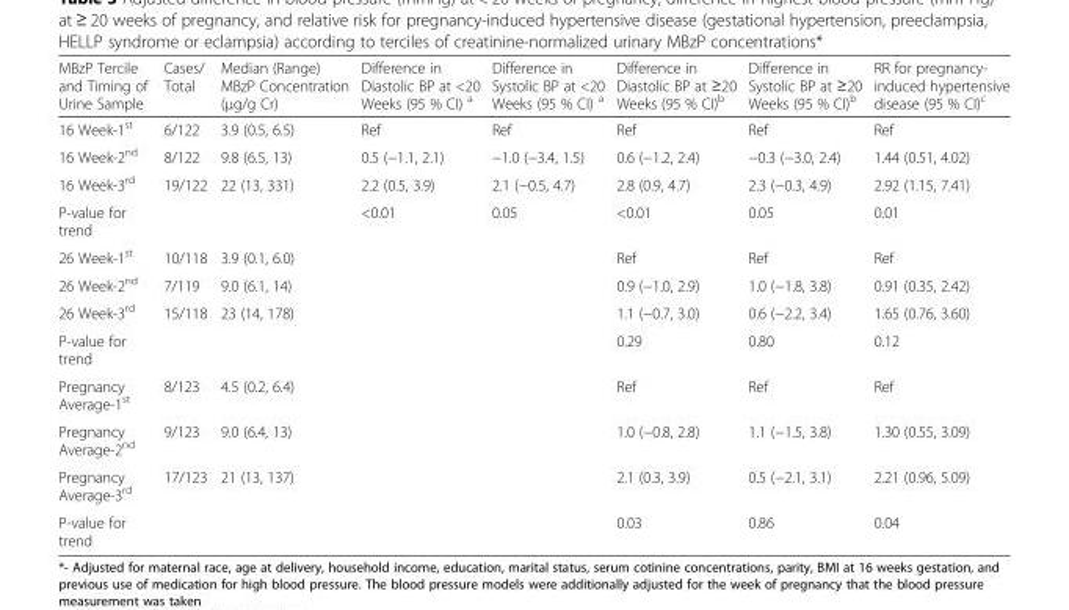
<table><thead><tr><td>MBzP Tercile and Timing of Urine Sample</td><td>Cases/ Total</td><td>Median (Range) MBzP Concentration (μg/g Cr)</td><td>Difference in Diastolic BP at &lt;20 Weeks (95 % CI) <sup>a</sup></td><td>Difference in Systolic BP at &lt;20 Weeks (95 % CI) <sup>a</sup></td><td>Difference in Diastolic BP at ≥20 Weeks (95 % CI)<sup>b</sup></td><td>Difference in Systolic BP at ≥20 Weeks (95 % CI)<sup>b</sup></td><td>RR for pregnancy- induced hypertensive disease (95 % CI)<sup>c</sup></td></tr></thead><tbody><tr><td>16 Week-1<sup>st</sup></td><td>6/122</td><td>3.9 (0.5, 6.5)</td><td>Ref</td><td>Ref</td><td>Ref</td><td>Ref</td><td>Ref</td></tr><tr><td>16 Week-2<sup>nd</sup></td><td>8/122</td><td>9.8 (6.5, 13)</td><td>0.5 (−1.1, 2.1)</td><td>−1.0 (−3.4, 1.5)</td><td>0.6 (−1.2, 2.4)</td><td>−0.3 (−3.0, 2.4)</td><td>1.44 (0.51, 4.02)</td></tr><tr><td>16 Week-3<sup>rd</sup></td><td>19/122</td><td>22 (13, 331)</td><td>2.2 (0.5, 3.9)</td><td>2.1 (−0.5, 4.7)</td><td>2.8 (0.9, 4.7)</td><td>2.3 (−0.3, 4.9)</td><td>2.92 (1.15, 7.41)</td></tr><tr><td>P-value for trend</td><td></td><td></td><td>&lt;0.01</td><td>0.05</td><td>&lt;0.01</td><td>0.05</td><td>0.01</td></tr><tr><td>26 Week-1<sup>st</sup></td><td>10/118</td><td>3.9 (0.1, 6.0)</td><td></td><td></td><td>Ref</td><td>Ref</td><td>Ref</td></tr><tr><td>26 Week-2<sup>nd</sup></td><td>7/119</td><td>9.0 (6.1, 14)</td><td></td><td></td><td>0.9 (−1.0, 2.9)</td><td>1.0 (−1.8, 3.8)</td><td>0.91 (0.35, 2.42)</td></tr><tr><td>26 Week-3<sup>rd</sup></td><td>15/118</td><td>23 (14, 178)</td><td></td><td></td><td>1.1 (−0.7, 3.0)</td><td>0.6 (−2.2, 3.4)</td><td>1.65 (0.76, 3.60)</td></tr><tr><td>P-value for trend</td><td></td><td></td><td></td><td></td><td>0.29</td><td>0.80</td><td>0.12</td></tr><tr><td>Pregnancy Average-1<sup>st</sup></td><td>8/123</td><td>4.5 (0.2, 6.4)</td><td></td><td></td><td>Ref</td><td>Ref</td><td>Ref</td></tr><tr><td>Pregnancy Average-2<sup>nd</sup></td><td>9/123</td><td>9.0 (6.4, 13)</td><td></td><td></td><td>1.0 (−0.8, 2.8)</td><td>1.1 (−1.5, 3.8)</td><td>1.30 (0.55, 3.09)</td></tr><tr><td>Pregnancy Average-3<sup>rd</sup></td><td>17/123</td><td>21 (13, 137)</td><td></td><td></td><td>2.1 (0.3, 3.9)</td><td>0.5 (−2.1, 3.1)</td><td>2.21 (0.96, 5.09)</td></tr><tr><td>P-value for trend</td><td></td><td></td><td></td><td></td><td>0.03</td><td>0.86</td><td>0.04</td></tr></tbody></table>